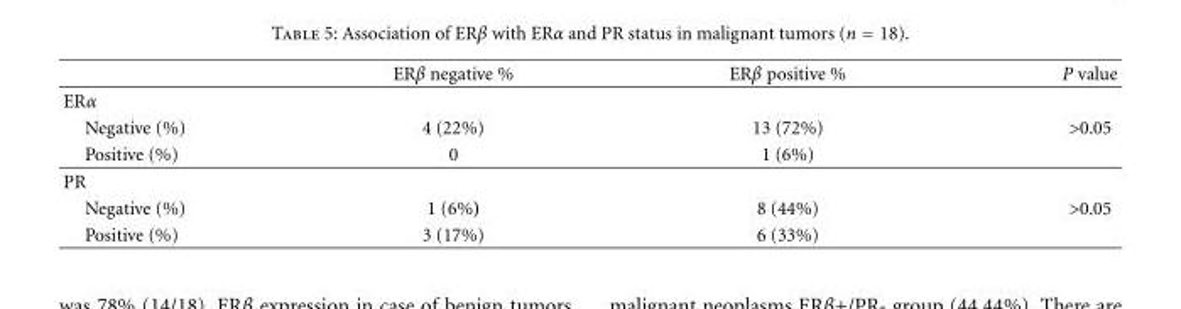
<table><thead><tr><td></td><td>ERβ negative %</td><td>ERβ positive %</td><td>P value</td></tr></thead><tbody><tr><td colspan="4">ERα</td></tr><tr><td>Negative (%)</td><td>4 (22%)</td><td>13 (72%)</td><td>&gt;0.05</td></tr><tr><td>Positive (%)</td><td>0</td><td>1 (6%)</td><td></td></tr><tr><td colspan="4">PR</td></tr><tr><td>Negative (%)</td><td>1 (6%)</td><td>8 (44%)</td><td>&gt;0.05</td></tr><tr><td>Positive (%)</td><td>3 (17%)</td><td>6 (33%)</td><td></td></tr></tbody></table>